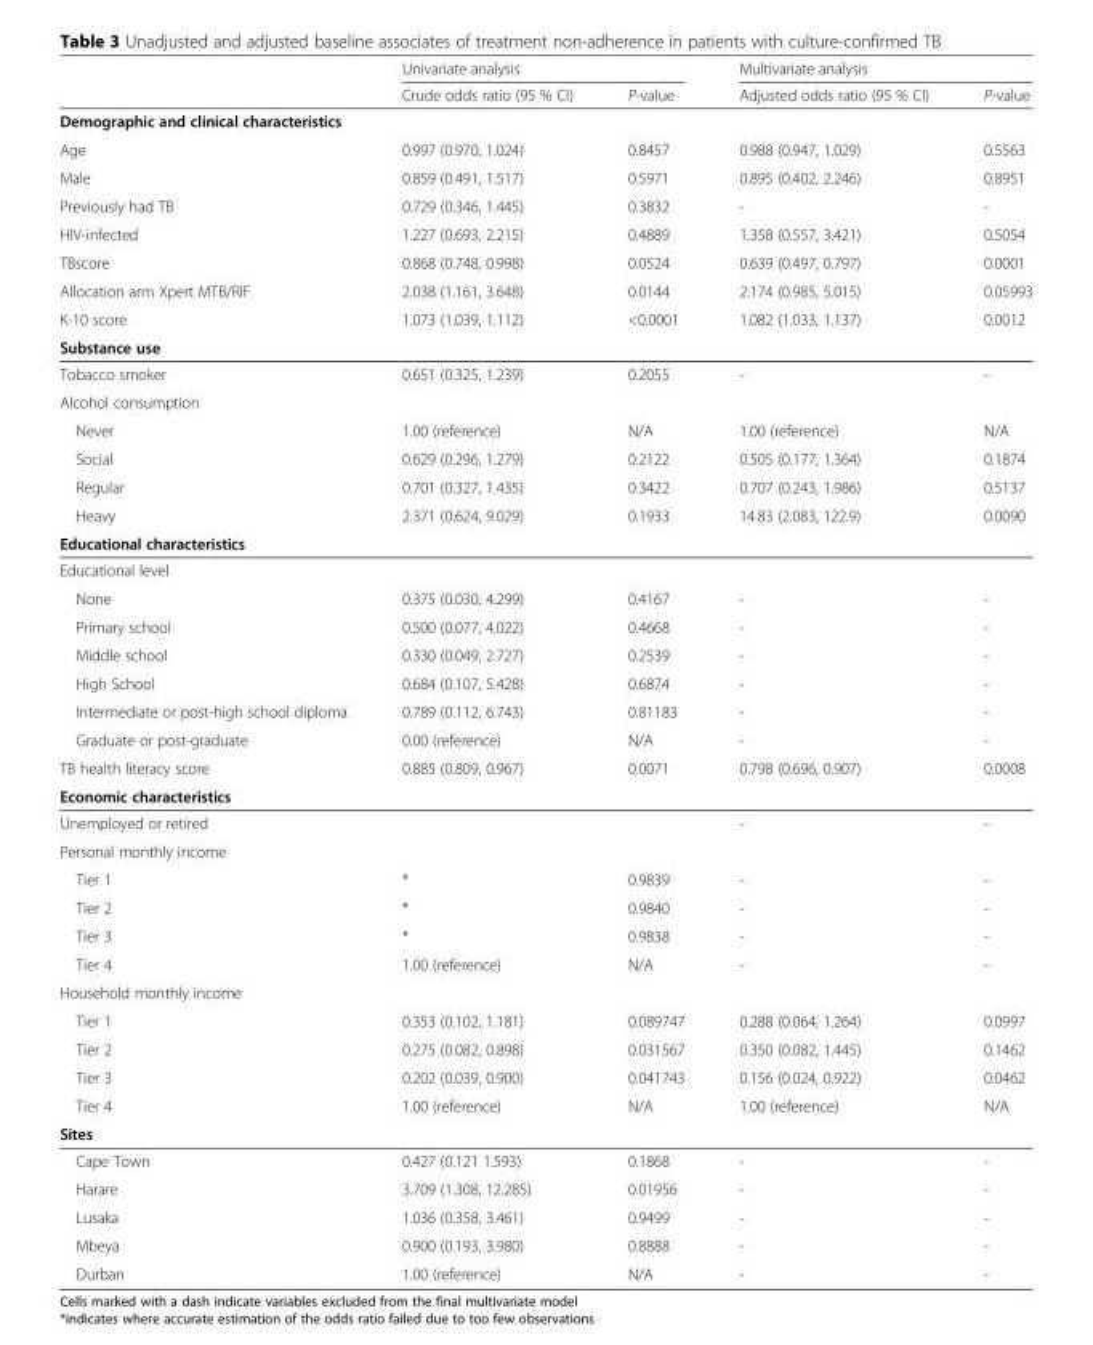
<table><thead><tr><td rowspan="2"></td><td colspan="2">Univariate analysis</td><td colspan="2">Multivariate analysis</td></tr><tr><td>Crude odds ratio (95 % CI)</td><td>P-value</td><td>Adjusted odds ratio (95 % CI)</td><td>P-value</td></tr></thead><tbody><tr><td colspan="5">Demographic and clinical characteristics</td></tr><tr><td>Age</td><td>0.997 (0.970, 1.024)</td><td>0.8457</td><td>0.988 (0.947, 1.029)</td><td>0.5563</td></tr><tr><td>Male</td><td>0.859 (0.491, 1.517)</td><td>0.5971</td><td>0.895 (0.402, 2.246)</td><td>0.8951</td></tr><tr><td>Previously had TB</td><td>0.729 (0.346, 1.445)</td><td>0.3832</td><td>-</td><td>-</td></tr><tr><td>HIV-infected</td><td>1.227 (0.693, 2.215)</td><td>0.4889</td><td>1.358 (0.557, 3.421)</td><td>0.5054</td></tr><tr><td>TBscore</td><td>0.868 (0.748, 0.998)</td><td>0.0524</td><td>0.639 (0.497, 0.797)</td><td>0.0001</td></tr><tr><td>Allocation arm Xpert MTB/RIF</td><td>2.038 (1.161, 3.648)</td><td>0.0144</td><td>2.174 (0.985, 5.015)</td><td>0.05993</td></tr><tr><td>K-10 score</td><td>1.073 (1.039, 1.112)</td><td>&lt;0.0001</td><td>1.082 (1.033, 1.137)</td><td>0.0012</td></tr><tr><td colspan="5">Substance use</td></tr><tr><td>Tobacco smoker</td><td>0.651 (0.325, 1.239)</td><td>0.2055</td><td>-</td><td>-</td></tr><tr><td colspan="5">Alcohol consumption</td></tr><tr><td>Never</td><td>1.00 (reference)</td><td>N/A</td><td>1.00 (reference)</td><td>N/A</td></tr><tr><td>Social</td><td>0.629 (0.296, 1.279)</td><td>0.2122</td><td>0.505 (0.177, 1.364)</td><td>0.1874</td></tr><tr><td>Regular</td><td>0.701 (0.327, 1.435)</td><td>0.3422</td><td>0.707 (0.243, 1.986)</td><td>0.5137</td></tr><tr><td>Heavy</td><td>2.371 (0.624, 9.029)</td><td>0.1933</td><td>14.83 (2.083, 122.9)</td><td>0.0090</td></tr><tr><td colspan="5">Educational characteristics</td></tr><tr><td colspan="5">Educational level</td></tr><tr><td>None</td><td>0.375 (0.030, 4.299)</td><td>0.4167</td><td>-</td><td>-</td></tr><tr><td>Primary school</td><td>0.500 (0.077, 4.022)</td><td>0.4668</td><td>-</td><td>-</td></tr><tr><td>Middle school</td><td>0.330 (0.049, 2.727)</td><td>0.2539</td><td>-</td><td>-</td></tr><tr><td>High School</td><td>0.684 (0.107, 5.428)</td><td>0.6874</td><td>-</td><td>-</td></tr><tr><td>Intermediate or post-high school diploma</td><td>0.789 (0.112, 6.743)</td><td>0.81183</td><td>-</td><td>-</td></tr><tr><td>Graduate or post-graduate</td><td>0.00 (reference)</td><td>N/A</td><td>-</td><td>-</td></tr><tr><td>TB health literacy score</td><td>0.885 (0.809, 0.967)</td><td>0.0071</td><td>0.798 (0.696, 0.907)</td><td>0.0008</td></tr><tr><td colspan="5">Economic characteristics</td></tr><tr><td>Unemployed or retired</td><td></td><td></td><td>-</td><td>-</td></tr><tr><td colspan="5">Personal monthly income</td></tr><tr><td>Tier 1</td><td>*</td><td>0.9839</td><td>-</td><td>-</td></tr><tr><td>Tier 2</td><td>*</td><td>0.9840</td><td>-</td><td>-</td></tr><tr><td>Tier 3</td><td>*</td><td>0.9838</td><td>-</td><td>-</td></tr><tr><td>Tier 4</td><td>1.00 (reference)</td><td>N/A</td><td>-</td><td>-</td></tr><tr><td colspan="5">Household monthly income</td></tr><tr><td>Tier 1</td><td>0.353 (0.102, 1.181)</td><td>0.089747</td><td>0.288 (0.064, 1.264)</td><td>0.0997</td></tr><tr><td>Tier 2</td><td>0.275 (0.082, 0.898)</td><td>0.031567</td><td>0.350 (0.082, 1.445)</td><td>0.1462</td></tr><tr><td>Tier 3</td><td>0.202 (0.039, 0.900)</td><td>0.041743</td><td>0.156 (0.024, 0.922)</td><td>0.0462</td></tr><tr><td>Tier 4</td><td>1.00 (reference)</td><td>N/A</td><td>1.00 (reference)</td><td>N/A</td></tr><tr><td colspan="5">Sites</td></tr><tr><td>Cape Town</td><td>0.427 (0.121 1.593)</td><td>0.1868</td><td>-</td><td>-</td></tr><tr><td>Harare</td><td>3.709 (1.308, 12.285)</td><td>0.01956</td><td>-</td><td>-</td></tr><tr><td>Lusaka</td><td>1.036 (0.358, 3.461)</td><td>0.9499</td><td>-</td><td>-</td></tr><tr><td>Mbeya</td><td>0.900 (0.193, 3.980)</td><td>0.8888</td><td>-</td><td>-</td></tr><tr><td>Durban</td><td>1.00 (reference)</td><td>N/A</td><td>-</td><td>-</td></tr></tbody></table>